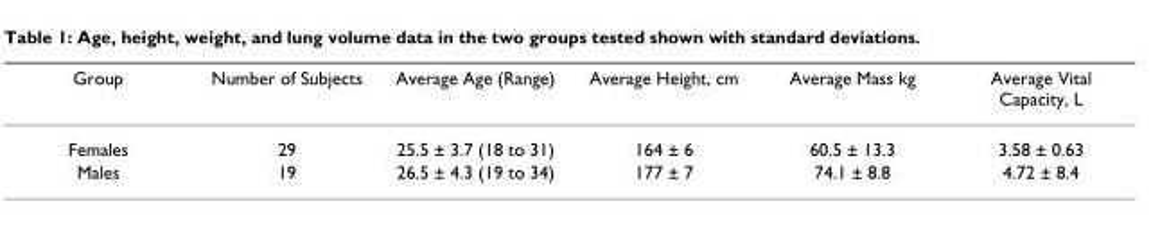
<table><thead><tr><td>Group</td><td>Number of Subjects</td><td>Average Age (Range)</td><td>Average Height, cm</td><td>Average Mass kg</td><td>Average Vital Capacity, L</td></tr></thead><tbody><tr><td>Females</td><td>29</td><td>25.5 ± 3.7 (18 to 31)</td><td>164 ± 6</td><td>60.5 ± 13.3</td><td>3.58 ± 0.63</td></tr><tr><td>Males</td><td>19</td><td>26.5 ± 4.3 (19 to 34)</td><td>177 ± 7</td><td>74.1 ± 8.8</td><td>4.72 ± 8.4</td></tr></tbody></table>